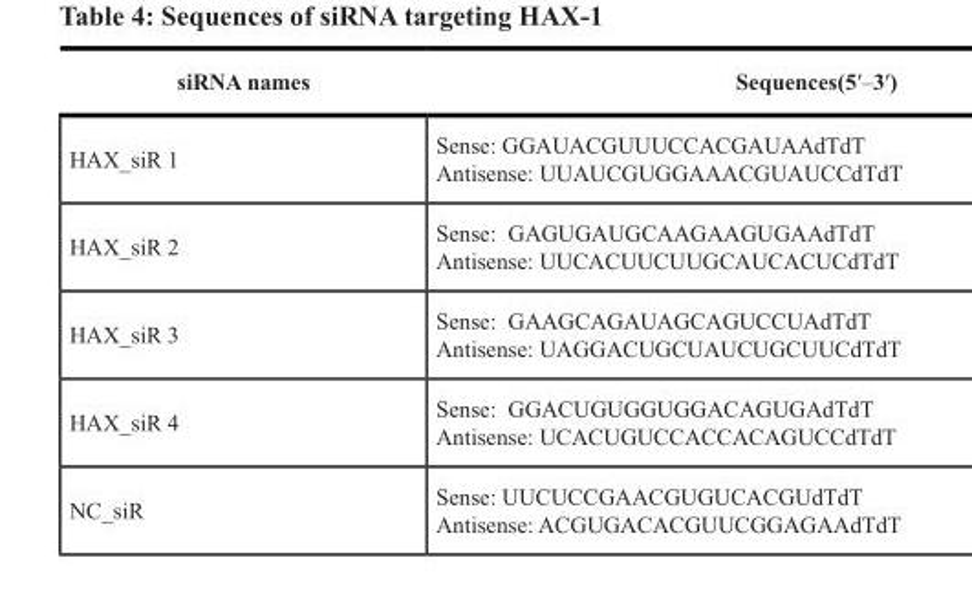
<table><thead><tr><td>siRNA names</td><td>Sequences(5′–3′)</td></tr></thead><tbody><tr><td>HAX_siR 1</td><td>Sense: GGAUACGUUUCCACGAUAAdTdT Antisense: UUAUCGUGGAAACGUAUCCdTdT</td></tr><tr><td>HAX_siR 2</td><td>Sense: GAGUGAUGCAAGAAGUGAAdTdT Antisense: UUCACUUCUUGCAUCACUCdTdT</td></tr><tr><td>HAX_siR 3</td><td>Sense: GAAGCAGAUAGCAGUCCUAdTdT Antisense: UAGGACUGCUAUCUGCUUCdTdT</td></tr><tr><td>HAX_siR 4</td><td>Sense: GGACUGUGGUGGACAGUGAdTdT Antisense: UCACUGUCCACCACAGUCCdTdT</td></tr><tr><td>NC_siR</td><td>Sense: UUCUCCGAACGUGUCACGUdTdT Antisense: ACGUGACACGUUCGGAGAAdTdT</td></tr></tbody></table>